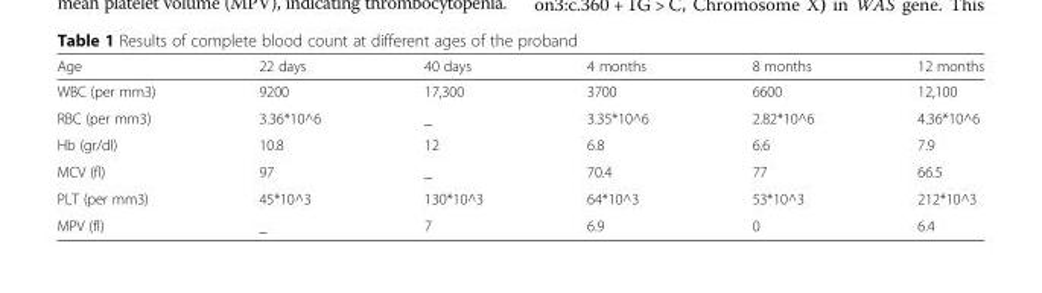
<table><thead><tr><td>Age</td><td>22 days</td><td>40 days</td><td>4 months</td><td>8 months</td><td>12 months</td></tr></thead><tbody><tr><td>WBC (per mm3)</td><td>9200</td><td>17,300</td><td>3700</td><td>6600</td><td>12,100</td></tr><tr><td>RBC (per mm3)</td><td>3.36*10^6</td><td>_</td><td>3.35*10^6</td><td>2.82*10^6</td><td>4.36*10^6</td></tr><tr><td>Hb (gr/dl)</td><td>10.8</td><td>12</td><td>6.8</td><td>6.6</td><td>7.9</td></tr><tr><td>MCV (fl)</td><td>97</td><td>_</td><td>70.4</td><td>77</td><td>66.5</td></tr><tr><td>PLT (per mm3)</td><td>45*10^3</td><td>130*10^3</td><td>64*10^3</td><td>53*10^3</td><td>212*10^3</td></tr><tr><td>MPV (fl)</td><td>_</td><td>7</td><td>6.9</td><td>0</td><td>6.4</td></tr></tbody></table>